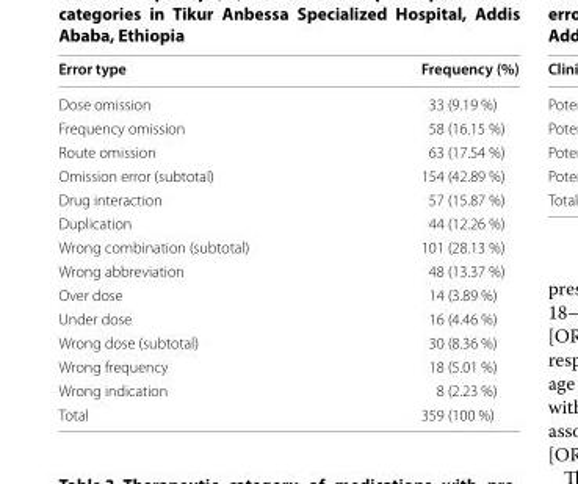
<table><thead><tr><td>Error type</td><td>Frequency (%)</td></tr></thead><tbody><tr><td>Dose omission</td><td>33 (9.19 %)</td></tr><tr><td>Frequency omission</td><td>58 (16.15 %)</td></tr><tr><td>Route omission</td><td>63 (17.54 %)</td></tr><tr><td>Omission error (subtotal)</td><td>154 (42.89 %)</td></tr><tr><td>Drug interaction</td><td>57 (15.87 %)</td></tr><tr><td>Duplication</td><td>44 (12.26 %)</td></tr><tr><td>Wrong combination (subtotal)</td><td>101 (28.13 %)</td></tr><tr><td>Wrong abbreviation</td><td>48 (13.37 %)</td></tr><tr><td>Over dose</td><td>14 (3.89 %)</td></tr><tr><td>Under dose</td><td>16 (4.46 %)</td></tr><tr><td>Wrong dose (subtotal)</td><td>30 (8.36 %)</td></tr><tr><td>Wrong frequency</td><td>18 (5.01 %)</td></tr><tr><td>Wrong indication</td><td>8 (2.23 %)</td></tr><tr><td>Total</td><td>359 (100 %)</td></tr></tbody></table>